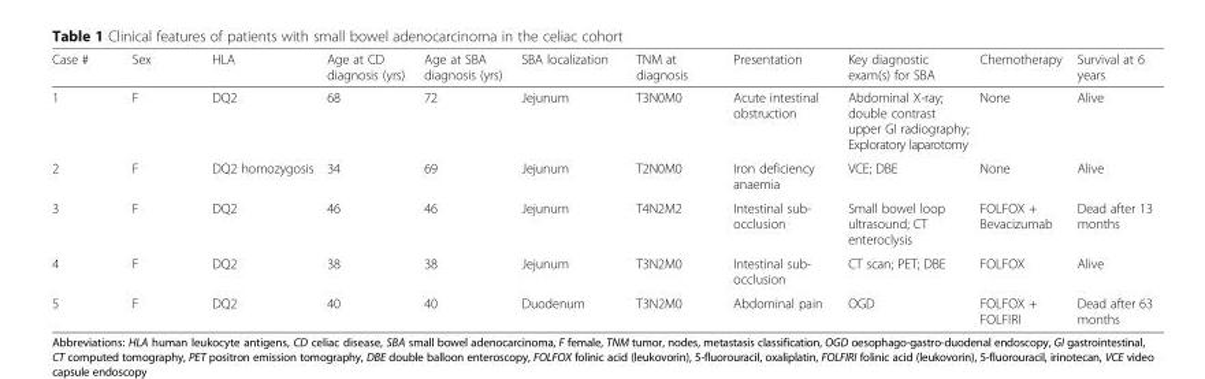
<table><thead><tr><td>Case #</td><td>Sex</td><td>HLA</td><td>Age at CD diagnosis (yrs)</td><td>Age at SBA diagnosis (yrs)</td><td>SBA localization</td><td>TNM at diagnosis</td><td>Presentation</td><td>Key diagnostic exam(s) for SBA</td><td>Chemotherapy</td><td>Survival at 6 years</td></tr></thead><tbody><tr><td>1</td><td>F</td><td>DQ2</td><td>68</td><td>72</td><td>Jejunum</td><td>T3N0M0</td><td>Acute intestinal obstruction</td><td>Abdominal X-ray; double contrast upper GI radiography; Exploratory laparotomy</td><td>None</td><td>Alive</td></tr><tr><td>2</td><td>F</td><td>DQ2 homozygosis</td><td>34</td><td>69</td><td>Jejunum</td><td>T2N0M0</td><td>Iron deficiency anaemia</td><td>VCE; DBE</td><td>None</td><td>Alive</td></tr><tr><td>3</td><td>F</td><td>DQ2</td><td>46</td><td>46</td><td>Jejunum</td><td>T4N2M2</td><td>Intestinal sub- occlusion</td><td>Small bowel loop ultrasound; CT enteroclysis</td><td>FOLFOX + Bevacizumab</td><td>Dead after 13 months</td></tr><tr><td>4</td><td>F</td><td>DQ2</td><td>38</td><td>38</td><td>Jejunum</td><td>T3N2M0</td><td>Intestinal sub- occlusion</td><td>CT scan; PET; DBE</td><td>FOLFOX</td><td>Alive</td></tr><tr><td>5</td><td>F</td><td>DQ2</td><td>40</td><td>40</td><td>Duodenum</td><td>T3N2M0</td><td>Abdominal pain</td><td>OGD</td><td>FOLFOX + FOLFIRI</td><td>Dead after 63 months</td></tr></tbody></table>